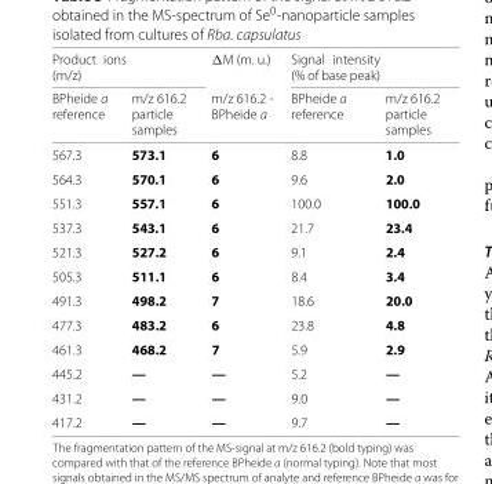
<table><thead><tr><td rowspan="2">Product ions (m/z) BPheide a reference</td><td rowspan="2">m/z 616.2 particle samples</td><td rowspan="2">ΔM (m. u.) m/z 616.2 - BPheide a</td><td rowspan="2">Signal intensity (% of base peak) BPheide a reference</td><td rowspan="2">m/z 616.2 particle samples</td></tr><tr></tr></thead><tbody><tr><td>567.3</td><td>573.1</td><td>6</td><td>8.8</td><td>1.0</td></tr><tr><td>564.3</td><td>570.1</td><td>6</td><td>9.6</td><td>2.0</td></tr><tr><td>551.3</td><td>557.1</td><td>6</td><td>100.0</td><td>100.0</td></tr><tr><td>537.3</td><td>543.1</td><td>6</td><td>21.7</td><td>23.4</td></tr><tr><td>521.3</td><td>527.2</td><td>6</td><td>9.1</td><td>2.4</td></tr><tr><td>505.3</td><td>511.1</td><td>6</td><td>8.4</td><td>3.4</td></tr><tr><td>491.3</td><td>498.2</td><td>7</td><td>18.6</td><td>20.0</td></tr><tr><td>477.3</td><td>483.2</td><td>6</td><td>23.8</td><td>4.8</td></tr><tr><td>461.3</td><td>468.2</td><td>7</td><td>5.9</td><td>2.9</td></tr><tr><td>445.2</td><td>—</td><td>—</td><td>5.2</td><td>—</td></tr><tr><td>431.2</td><td>—</td><td>—</td><td>9.0</td><td>—</td></tr><tr><td>417.2</td><td>—</td><td>—</td><td>9.7</td><td>—</td></tr></tbody></table>